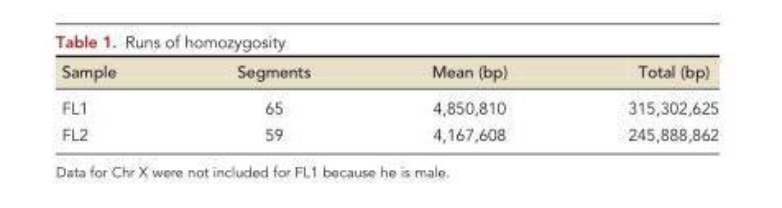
<table><thead><tr><td>Sample</td><td>Segments</td><td>Mean (bp)</td><td>Total (bp)</td></tr></thead><tbody><tr><td>FL1</td><td>65</td><td>4,850,810</td><td>315,302,625</td></tr><tr><td>FL2</td><td>59</td><td>4,167,608</td><td>245,888,862</td></tr></tbody></table>